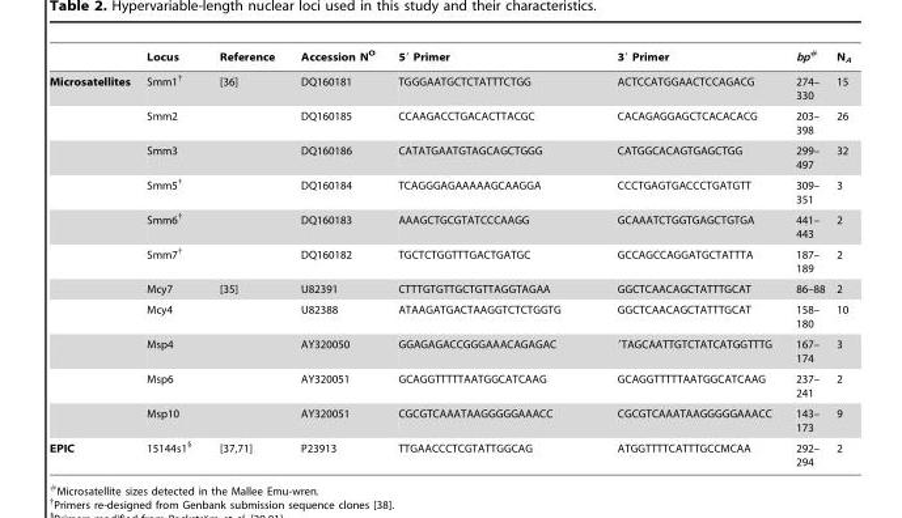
<table><thead><tr><td></td><td>Locus</td><td>Reference</td><td>Accession N<sup>O</sup></td><td>5′ Primer</td><td>3′ Primer</td><td>bp#</td><td>N<sub>A</sub></td></tr></thead><tbody><tr><td rowspan="11">Microsatellites</td><td>Smm1†</td><td>[36]</td><td>DQ160181</td><td>TGGGAATGCTCTATTTCTGG</td><td>ACTCCATGGAACTCCAGACG</td><td>274– 330</td><td>15</td></tr><tr><td>Smm2</td><td></td><td>DQ160185</td><td>CCAAGACCTGACACTTACGC</td><td>CACAGAGGAGCTCACACACG</td><td>203– 398</td><td>26</td></tr><tr><td>Smm3</td><td></td><td>DQ160186</td><td>CATATGAATGTAGCAGCTGGG</td><td>CATGGCACAGTGAGCTGG</td><td>299– 497</td><td>32</td></tr><tr><td>Smm5†</td><td></td><td>DQ160184</td><td>TCAGGGAGAAAAAGCAAGGA</td><td>CCCTGAGTGACCCTGATGTT</td><td>309– 351</td><td>3</td></tr><tr><td>Smm6†</td><td></td><td>DQ160183</td><td>AAAGCTGCGTATCCCAAGG</td><td>GCAAATCTGGTGAGCTGTGA</td><td>441– 443</td><td>2</td></tr><tr><td>Smm7†</td><td></td><td>DQ160182</td><td>TGCTCTGGTTTGACTGATGC</td><td>GCCAGCCAGGATGCTATTTA</td><td>187– 189</td><td>2</td></tr><tr><td>Mcy7</td><td>[35]</td><td>U82391</td><td>CTTTGTGTTGCTGTTAGGTAGAA</td><td>GGCTCAACAGCTATTTGCAT</td><td>86–88</td><td>2</td></tr><tr><td>Mcy4</td><td></td><td>U82388</td><td>ATAAGATGACTAAGGTCTCTGGTG</td><td>GGCTCAACAGCTATTTGCAT</td><td>158– 180</td><td>10</td></tr><tr><td>Msp4</td><td></td><td>AY320050</td><td>GGAGAGACCGGGAAACAGAGAC</td><td>′TAGCAATTGTCTATCATGGTTTG</td><td>167– 174</td><td>3</td></tr><tr><td>Msp6</td><td></td><td>AY320051</td><td>GCAGGTTTTTAATGGCATCAAG</td><td>GCAGGTTTTTAATGGCATCAAG</td><td>237– 241</td><td>2</td></tr><tr><td>Msp10</td><td></td><td>AY320051</td><td>CGCGTCAAATAAGGGGGAAACC</td><td>CGCGTCAAATAAGGGGGAAACC</td><td>143– 173</td><td>9</td></tr><tr><td>EPIC</td><td>15144s1§</td><td>[37,71]</td><td>P23913</td><td>TTGAACCCTCGTATTGGCAG</td><td>ATGGTTTTCATTTGCCMCAA</td><td>292– 294</td><td>2</td></tr></tbody></table>